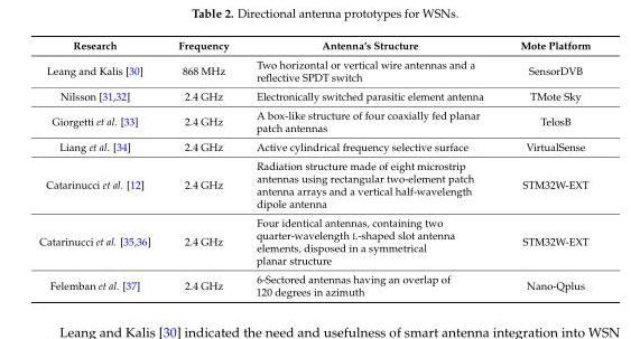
<table><thead><tr><td>Research</td><td>Frequency</td><td>Antenna’s Structure</td><td>Mote Platform</td></tr></thead><tbody><tr><td>Leang and Kalis [30]</td><td>868 MHz</td><td>Two horizontal or vertical wire antennas and a reflective SPDT switch</td><td>SensorDVB</td></tr><tr><td>Nilsson [31,32]</td><td>2.4 GHz</td><td>Electronically switched parasitic element antenna</td><td>TMote Sky</td></tr><tr><td>Giorgetti et al. [33]</td><td>2.4 GHz</td><td>A box-like structure of four coaxially fed planar patch antennas</td><td>TelosB</td></tr><tr><td>Liang et al. [34]</td><td>2.4 GHz</td><td>Active cylindrical frequency selective surface</td><td>VirtualSense</td></tr><tr><td>Catarinucci et al. [12]</td><td>2.4 GHz</td><td>Radiation structure made of eight microstrip antennas using rectangular two-element patch antenna arrays and a vertical half-wavelength dipole antenna</td><td>STM32W-EXT</td></tr><tr><td>Catarinucci et al. [35,36]</td><td>2.4 GHz</td><td>Four identical antennas, containing two quarter-wavelength L-shaped slot antenna elements, disposed in a symmetrical planar structure</td><td>STM32W-EXT</td></tr><tr><td>Felemban et al. [37]</td><td>2.4 GHz</td><td>6-Sectored antennas having an overlap of 120 degrees in azimuth</td><td>Nano-Qplus</td></tr></tbody></table>